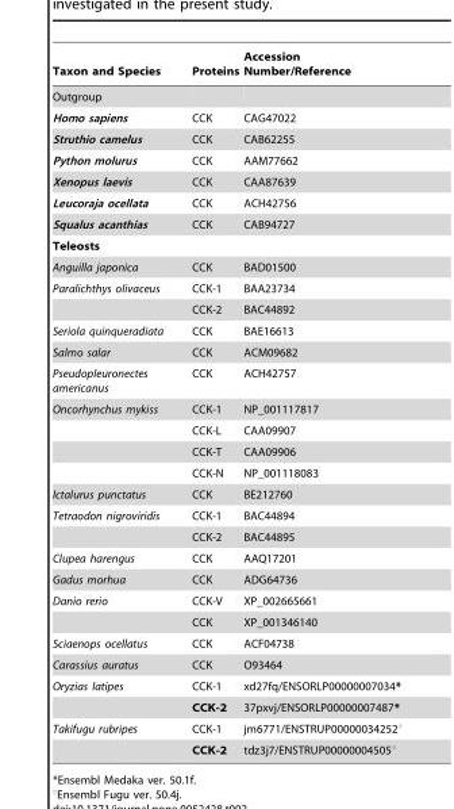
<table><thead><tr><td>Taxon and Species</td><td>Proteins</td><td>Accession Number/Reference</td></tr></thead><tbody><tr><td colspan="3">Outgroup</td></tr><tr><td>Homo sapiens</td><td>CCK</td><td>CAG47022</td></tr><tr><td>Struthio camelus</td><td>CCK</td><td>CAB62255</td></tr><tr><td>Python molurus</td><td>CCK</td><td>AAM77662</td></tr><tr><td>Xenopus laevis</td><td>CCK</td><td>CAA87639</td></tr><tr><td>Leucoraja ocellata</td><td>CCK</td><td>ACH42756</td></tr><tr><td>Squalus acanthias</td><td>CCK</td><td>CAB94727</td></tr><tr><td colspan="3">Teleosts</td></tr><tr><td>Anguilla japonica</td><td>CCK</td><td>BAD01500</td></tr><tr><td rowspan="2">Paralichthys olivaceus</td><td>CCK-1</td><td>BAA23734</td></tr><tr><td>CCK-2</td><td>BAC44892</td></tr><tr><td>Seriola quinqueradiata</td><td>CCK</td><td>BAE16613</td></tr><tr><td>Salmo salar</td><td>CCK</td><td>ACM09682</td></tr><tr><td>Pseudopleuronectes americanus</td><td>CCK</td><td>ACH42757</td></tr><tr><td rowspan="4">Oncorhynchus mykiss</td><td>CCK-1</td><td>NP_001117817</td></tr><tr><td>CCK-L</td><td>CAA09907</td></tr><tr><td>CCK-T</td><td>CAA09906</td></tr><tr><td>CCK-N</td><td>NP_001118083</td></tr><tr><td>Ictalurus punctatus</td><td>CCK</td><td>BE212760</td></tr><tr><td rowspan="2">Tetraodon nigroviridis</td><td>CCK-1</td><td>BAC44894</td></tr><tr><td>CCK-2</td><td>BAC44895</td></tr><tr><td>Clupea harengus</td><td>CCK</td><td>AAQ17201</td></tr><tr><td>Gadus morhua</td><td>CCK</td><td>ADG64736</td></tr><tr><td rowspan="2">Danio rerio</td><td>CCK-V</td><td>XP_002665661</td></tr><tr><td>CCK</td><td>XP_001346140</td></tr><tr><td>Sciaenops ocellatus</td><td>CCK</td><td>ACF04738</td></tr><tr><td>Carassius auratus</td><td>CCK</td><td>O93464</td></tr><tr><td rowspan="2">Oryzias latipes</td><td>CCK-1</td><td>xd27fq/ENSORLP00000007034*</td></tr><tr><td>CCK-2</td><td>37pxvj/ENSORLP00000007487*</td></tr><tr><td rowspan="2">Takifugu rubripes</td><td>CCK-1</td><td>jm6771/ENSTRUP00000034252°</td></tr><tr><td>CCK-2</td><td>tdz3j7/ENSTRUP00000004505°</td></tr></tbody></table>